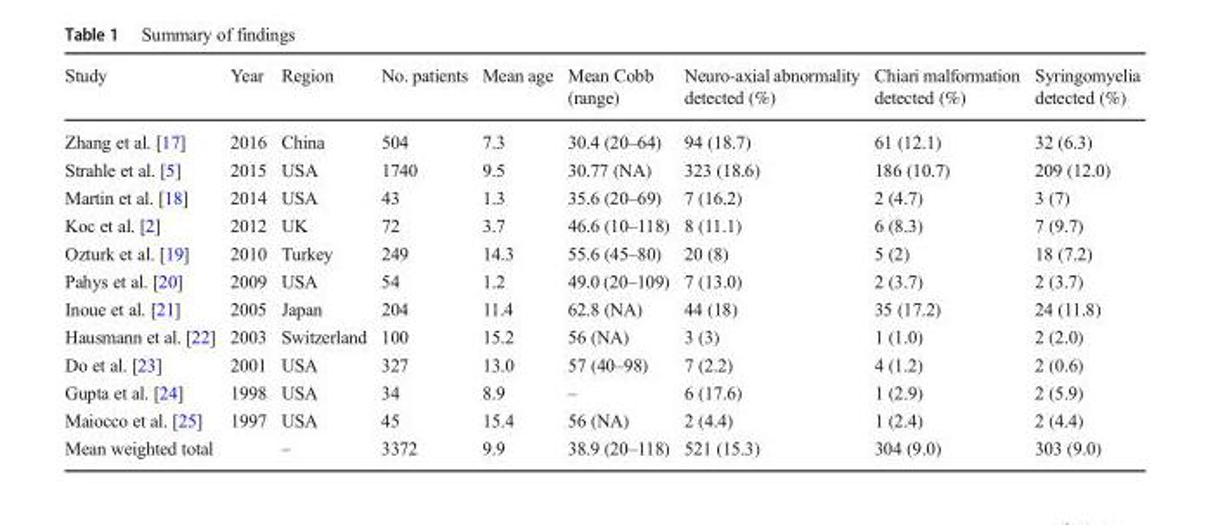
<table><thead><tr><td>Study</td><td>Year</td><td>Region</td><td>No. patients</td><td>Mean age</td><td>Mean Cobb (range)</td><td>Neuro-axial abnormality detected (%)</td><td>Chiari malformation detected (%)</td><td>Syringomyelia detected (%)</td></tr></thead><tbody><tr><td>Zhang et al. [17]</td><td>2016</td><td>China</td><td>504</td><td>7.3</td><td>30.4 (20–64)</td><td>94 (18.7)</td><td>61 (12.1)</td><td>32 (6.3)</td></tr><tr><td>Strahle et al. [5]</td><td>2015</td><td>USA</td><td>1740</td><td>9.5</td><td>30.77 (NA)</td><td>323 (18.6)</td><td>186 (10.7)</td><td>209 (12.0)</td></tr><tr><td>Martin et al. [18]</td><td>2014</td><td>USA</td><td>43</td><td>1.3</td><td>35.6 (20–69)</td><td>7 (16.2)</td><td>2 (4.7)</td><td>3 (7)</td></tr><tr><td>Koc et al. [2]</td><td>2012</td><td>UK</td><td>72</td><td>3.7</td><td>46.6 (10–118)</td><td>8 (11.1)</td><td>6 (8.3)</td><td>7 (9.7)</td></tr><tr><td>Ozturk et al. [19]</td><td>2010</td><td>Turkey</td><td>249</td><td>14.3</td><td>55.6 (45–80)</td><td>20 (8)</td><td>5 (2)</td><td>18 (7.2)</td></tr><tr><td>Pahys et al. [20]</td><td>2009</td><td>USA</td><td>54</td><td>1.2</td><td>49.0 (20–109)</td><td>7 (13.0)</td><td>2 (3.7)</td><td>2 (3.7)</td></tr><tr><td>Inoue et al. [21]</td><td>2005</td><td>Japan</td><td>204</td><td>11.4</td><td>62.8 (NA)</td><td>44 (18)</td><td>35 (17.2)</td><td>24 (11.8)</td></tr><tr><td>Hausmann et al. [22]</td><td>2003</td><td>Switzerland</td><td>100</td><td>15.2</td><td>56 (NA)</td><td>3 (3)</td><td>1 (1.0)</td><td>2 (2.0)</td></tr><tr><td>Do et al. [23]</td><td>2001</td><td>USA</td><td>327</td><td>13.0</td><td>57 (40–98)</td><td>7 (2.2)</td><td>4 (1.2)</td><td>2 (0.6)</td></tr><tr><td>Gupta et al. [24]</td><td>1998</td><td>USA</td><td>34</td><td>8.9</td><td>–</td><td>6 (17.6)</td><td>1 (2.9)</td><td>2 (5.9)</td></tr><tr><td>Maiocco et al. [25]</td><td>1997</td><td>USA</td><td>45</td><td>15.4</td><td>56 (NA)</td><td>2 (4.4)</td><td>1 (2.4)</td><td>2 (4.4)</td></tr><tr><td>Mean weighted total</td><td></td><td>–</td><td>3372</td><td>9.9</td><td>38.9 (20–118)</td><td>521 (15.3)</td><td>304 (9.0)</td><td>303 (9.0)</td></tr></tbody></table>